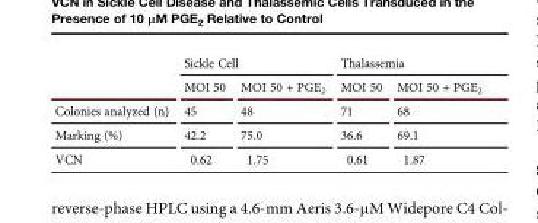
<table><thead><tr><td rowspan="2"></td><td colspan="2">Sickle Cell</td><td colspan="2">Thalassemia</td></tr><tr><td>MOI 50</td><td>MOI 50 + PGE<sub>2</sub></td><td>MOI 50</td><td>MOI 50 + PGE<sub>2</sub></td></tr></thead><tbody><tr><td>Colonies analyzed (n)</td><td>45</td><td>48</td><td>71</td><td>68</td></tr><tr><td>Marking (%)</td><td>42.2</td><td>75.0</td><td>36.6</td><td>69.1</td></tr><tr><td>VCN</td><td>0.62</td><td>1.75</td><td>0.61</td><td>1.87</td></tr></tbody></table>